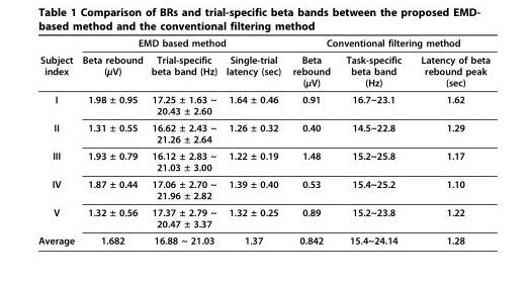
<table><thead><tr><td rowspan="2">Subject index</td><td colspan="3">EMD based method</td><td colspan="3">Conventional filtering method</td></tr><tr><td>Beta rebound (μV)</td><td>Trial-specific beta band (Hz)</td><td>Single-trial latency (sec)</td><td>Beta rebound (μV)</td><td>Task-specific beta band (Hz)</td><td>Latency of beta rebound peak (sec)</td></tr></thead><tbody><tr><td>I</td><td>1.98 ± 0.95</td><td>17.25 ± 1.63 ~ 20.43 ± 2.60</td><td>1.64 ± 0.46</td><td>0.91</td><td>16.7~23.1</td><td>1.62</td></tr><tr><td>II</td><td>1.31 ± 0.55</td><td>16.62 ± 2.43 ~ 21.26 ± 2.64</td><td>1.26 ± 0.32</td><td>0.40</td><td>14.5~22.8</td><td>1.29</td></tr><tr><td>III</td><td>1.93 ± 0.79</td><td>16.12 ± 2.83 ~ 21.03 ± 3.00</td><td>1.22 ± 0.19</td><td>1.48</td><td>15.2~25.8</td><td>1.17</td></tr><tr><td>IV</td><td>1.87 ± 0.44</td><td>17.06 ± 2.70 ~ 21.96 ± 2.82</td><td>1.39 ± 0.40</td><td>0.53</td><td>15.4~25.2</td><td>1.10</td></tr><tr><td>V</td><td>1.32 ± 0.56</td><td>17.37 ± 2.79 ~ 20.47 ± 3.37</td><td>1.32 ± 0.25</td><td>0.89</td><td>15.2~23.8</td><td>1.22</td></tr><tr><td>Average</td><td>1.682</td><td>16.88 ~ 21.03</td><td>1.37</td><td>0.842</td><td>15.4~24.14</td><td>1.28</td></tr></tbody></table>